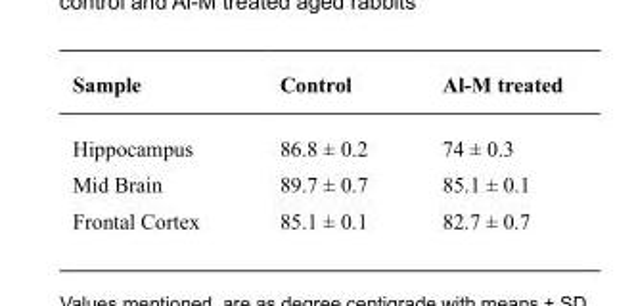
<table><thead><tr><td>Sample</td><td>Control</td><td>Al-M treated</td></tr></thead><tbody><tr><td>Hippocampus</td><td>86.8 ± 0.2</td><td>74 ± 0.3</td></tr><tr><td>Mid Brain</td><td>89.7 ± 0.7</td><td>85.1 ± 0.1</td></tr><tr><td>Frontal Cortex</td><td>85.1 ± 0.1</td><td>82.7 ± 0.7</td></tr></tbody></table>